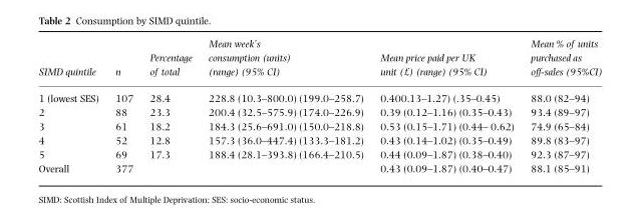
<table><thead><tr><td>SIMD quintile</td><td>n</td><td>Percentage of total</td><td>Mean week’s consumption (units) (range) (95% CI)</td><td>Mean price paid per UK unit (£) (range) (95% CI)</td><td>Mean % of units purchased as off-sales (95%CI)</td></tr></thead><tbody><tr><td>1 (lowest SES)</td><td>107</td><td>28.4</td><td>228.8 (10.3–800.0) (199.0–258.7)</td><td>0.400.13–1.27) (.35–0.45)</td><td>88.0 (82–94)</td></tr><tr><td>2</td><td>88</td><td>23.3</td><td>200.4 (32.5–575.9) (174.0–226.9)</td><td>0.39 (0.12–1.16) (0.35–0.43)</td><td>93.4 (89–97)</td></tr><tr><td>3</td><td>61</td><td>18.2</td><td>184.3 (25.6–691.0) (150.0–218.8)</td><td>0.53 (0.15–1.71) (0.44– 0.62)</td><td>74.9 (65–84)</td></tr><tr><td>4</td><td>52</td><td>12.8</td><td>157.3 (36.0–447.4) (133.3–181.2)</td><td>0.43 (0.14–1.02) (0.35–0.49)</td><td>89.8 (83–97)</td></tr><tr><td>5</td><td>69</td><td>17.3</td><td>188.4 (28.1–393.8) (166.4–210.5)</td><td>0.44 (0.09–1.87) (0.38–0.40)</td><td>92.3 (87–97)</td></tr><tr><td>Overall</td><td>377</td><td></td><td></td><td>0.43 (0.09–1.87) (0.40–0.47)</td><td>88.1 (85–91)</td></tr></tbody></table>